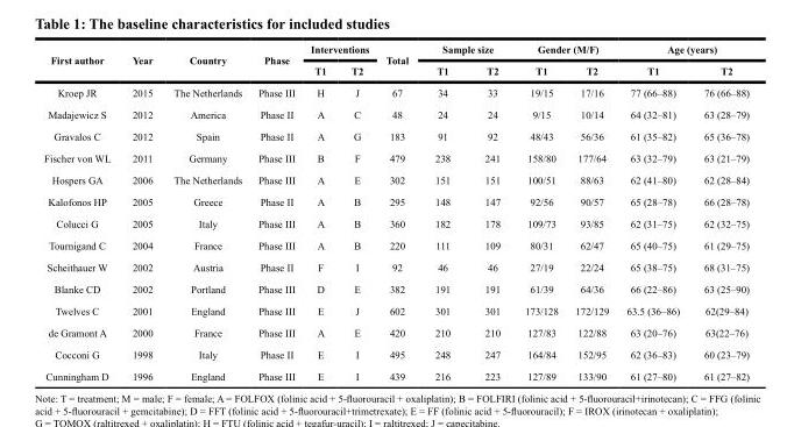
<table><thead><tr><td rowspan="2">First author</td><td rowspan="2">Year</td><td rowspan="2">Country</td><td rowspan="2">Phase</td><td colspan="2">Interventions</td><td rowspan="2">Total</td><td colspan="2">Sample size</td><td colspan="2">Gender (M/F)</td><td colspan="2">Age (years)</td></tr><tr><td>T1</td><td>T2</td><td>T1</td><td>T2</td><td>T1</td><td>T2</td><td>T1</td><td>T2</td></tr></thead><tbody><tr><td>Kroep JR</td><td>2015</td><td>The Netherlands</td><td>Phase III</td><td>H</td><td>J</td><td>67</td><td>34</td><td>33</td><td>19/15</td><td>17/16</td><td>77 (66–88)</td><td>76 (66–88)</td></tr><tr><td>Madajewicz S</td><td>2012</td><td>America</td><td>Phase II</td><td>A</td><td>C</td><td>48</td><td>24</td><td>24</td><td>9/15</td><td>10/14</td><td>64 (32–81)</td><td>63 (28–79)</td></tr><tr><td>Gravalos C</td><td>2012</td><td>Spain</td><td>Phase II</td><td>A</td><td>G</td><td>183</td><td>91</td><td>92</td><td>48/43</td><td>56/36</td><td>61 (35–82)</td><td>65 (36–78)</td></tr><tr><td>Fischer von WL</td><td>2011</td><td>Germany</td><td>Phase III</td><td>B</td><td>F</td><td>479</td><td>238</td><td>241</td><td>158/80</td><td>177/64</td><td>63 (32–79)</td><td>63 (21–79)</td></tr><tr><td>Hospers GA</td><td>2006</td><td>The Netherlands</td><td>Phase III</td><td>A</td><td>E</td><td>302</td><td>151</td><td>151</td><td>100/51</td><td>88/63</td><td>62 (41–80)</td><td>62 (28–84)</td></tr><tr><td>Kalofonos HP</td><td>2005</td><td>Greece</td><td>Phase II</td><td>A</td><td>B</td><td>295</td><td>148</td><td>147</td><td>92/56</td><td>90/57</td><td>65 (28–78)</td><td>66 (28–78)</td></tr><tr><td>Colucci G</td><td>2005</td><td>Italy</td><td>Phase III</td><td>A</td><td>B</td><td>360</td><td>182</td><td>178</td><td>109/73</td><td>93/85</td><td>62 (31–75)</td><td>62 (32–75)</td></tr><tr><td>Tournigand C</td><td>2004</td><td>France</td><td>Phase III</td><td>A</td><td>B</td><td>220</td><td>111</td><td>109</td><td>80/31</td><td>62/47</td><td>65 (40–75)</td><td>61 (29–75)</td></tr><tr><td>Scheithauer W</td><td>2002</td><td>Austria</td><td>Phase II</td><td>F</td><td>I</td><td>92</td><td>46</td><td>46</td><td>27/19</td><td>22/24</td><td>65 (38–75)</td><td>68 (31–75)</td></tr><tr><td>Blanke CD</td><td>2002</td><td>Portland</td><td>Phase III</td><td>D</td><td>E</td><td>382</td><td>191</td><td>191</td><td>61/39</td><td>64/36</td><td>66 (22–86)</td><td>63 (25–90)</td></tr><tr><td>Twelves C</td><td>2001</td><td>England</td><td>Phase III</td><td>E</td><td>J</td><td>602</td><td>301</td><td>301</td><td>173/128</td><td>172/129</td><td>63.5 (36–86)</td><td>62(29–84)</td></tr><tr><td>de Gramont A</td><td>2000</td><td>France</td><td>Phase III</td><td>A</td><td>E</td><td>420</td><td>210</td><td>210</td><td>127/83</td><td>122/88</td><td>63 (20–76)</td><td>63(22–76)</td></tr><tr><td>Cocconi G</td><td>1998</td><td>Italy</td><td>Phase II</td><td>E</td><td>I</td><td>495</td><td>248</td><td>247</td><td>164/84</td><td>152/95</td><td>62 (36–83)</td><td>60 (23–79)</td></tr><tr><td>Cunningham D</td><td>1996</td><td>England</td><td>Phase III</td><td>E</td><td>I</td><td>439</td><td>216</td><td>223</td><td>127/89</td><td>133/90</td><td>61 (27–80)</td><td>61 (27–82)</td></tr></tbody></table>